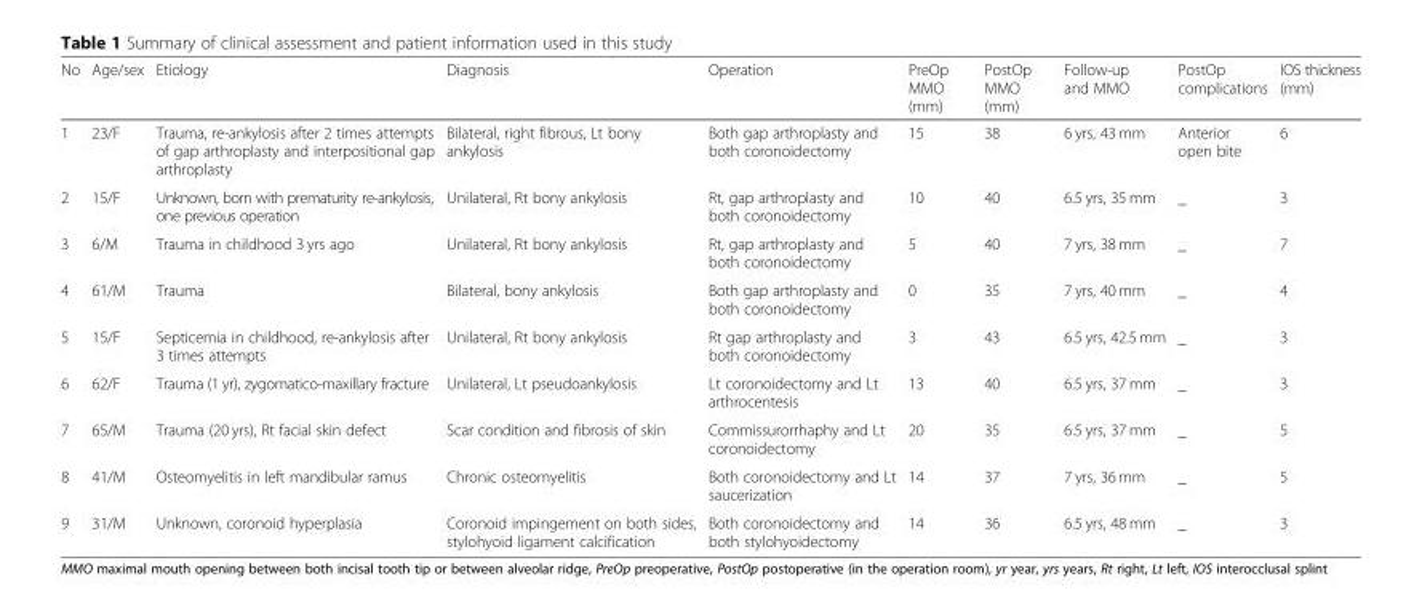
<table><thead><tr><td>No</td><td>Age/sex</td><td>Etiology</td><td>Diagnosis</td><td>Operation</td><td>PreOp MMO (mm)</td><td>PostOp MMO (mm)</td><td>Follow-up and MMO</td><td>PostOp complications</td><td>IOS thickness (mm)</td></tr></thead><tbody><tr><td>1</td><td>23/F</td><td>Trauma, re-ankylosis after 2 times attempts of gap arthroplasty and interpositional gap arthroplasty</td><td>Bilateral, right fibrous, Lt bony ankylosis</td><td>Both gap arthroplasty and both coronoidectomy</td><td>15</td><td>38</td><td>6 yrs, 43 mm</td><td>Anterior open bite</td><td>6</td></tr><tr><td>2</td><td>15/F</td><td>Unknown, born with prematurity re-ankylosis, one previous operation</td><td>Unilateral, Rt bony ankylosis</td><td>Rt, gap arthroplasty and both coronoidectomy</td><td>10</td><td>40</td><td>6.5 yrs, 35 mm</td><td>_</td><td>3</td></tr><tr><td>3</td><td>6/M</td><td>Trauma in childhood 3 yrs ago</td><td>Unilateral, Rt bony ankylosis</td><td>Rt, gap arthroplasty and both coronoidectomy</td><td>5</td><td>40</td><td>7 yrs, 38 mm</td><td>_</td><td>7</td></tr><tr><td>4</td><td>61/M</td><td>Trauma</td><td>Bilateral, bony ankylosis</td><td>Both gap arthroplasty and both coronoidectomy</td><td>0</td><td>35</td><td>7 yrs, 40 mm</td><td>_</td><td>4</td></tr><tr><td>5</td><td>15/F</td><td>Septicemia in childhood, re-ankylosis after 3 times attempts</td><td>Unilateral, Rt bony ankylosis</td><td>Rt gap arthroplasty and both coronoidectomy</td><td>3</td><td>43</td><td>6.5 yrs, 42.5 mm</td><td>_</td><td>3</td></tr><tr><td>6</td><td>62/F</td><td>Trauma (1 yr), zygomatico-maxillary fracture</td><td>Unilateral, Lt pseudoankylosis</td><td>Lt coronoidectomy and Lt arthrocentesis</td><td>13</td><td>40</td><td>6.5 yrs, 37 mm</td><td>_</td><td>3</td></tr><tr><td>7</td><td>65/M</td><td>Trauma (20 yrs), Rt facial skin defect</td><td>Scar condition and fibrosis of skin</td><td>Commissurorrhaphy and Lt coronoidectomy</td><td>20</td><td>35</td><td>6.5 yrs, 37 mm</td><td>_</td><td>5</td></tr><tr><td>8</td><td>41/M</td><td>Osteomyelitis in left mandibular ramus</td><td>Chronic osteomyelitis</td><td>Both coronoidectomy and Lt saucerization</td><td>14</td><td>37</td><td>7 yrs, 36 mm</td><td>_</td><td>5</td></tr><tr><td>9</td><td>31/M</td><td>Unknown, coronoid hyperplasia</td><td>Coronoid impingement on both sides, stylohyoid ligament calcification</td><td>Both coronoidectomy and both stylohyoidectomy</td><td>14</td><td>36</td><td>6.5 yrs, 48 mm</td><td>_</td><td>3</td></tr></tbody></table>